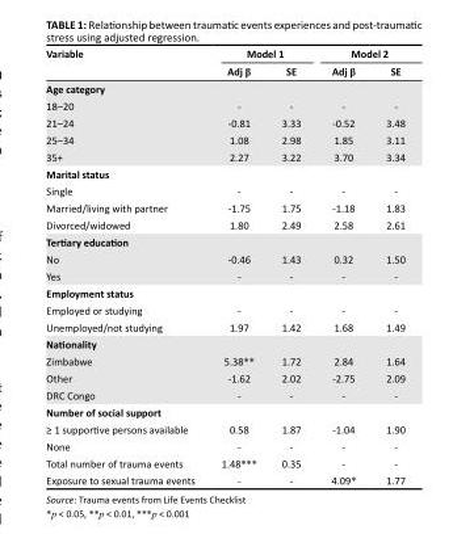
<table><thead><tr><td rowspan="2">Variable</td><td colspan="2">Model 1</td><td colspan="2">Model 2</td></tr><tr><td>Adj β</td><td>SE</td><td>Adj β</td><td>SE</td></tr></thead><tbody><tr><td colspan="5">Age category</td></tr><tr><td>18–20</td><td>-</td><td>-</td><td>-</td><td>-</td></tr><tr><td>21–24</td><td>-0.81</td><td>3.33</td><td>-0.52</td><td>3.48</td></tr><tr><td>25–34</td><td>1.08</td><td>2.98</td><td>1.85</td><td>3.11</td></tr><tr><td>35+</td><td>2.27</td><td>3.22</td><td>3.70</td><td>3.34</td></tr><tr><td colspan="5">Marital status</td></tr><tr><td>Single</td><td>-</td><td>-</td><td>-</td><td>-</td></tr><tr><td>Married/living with partner</td><td>-1.75</td><td>1.75</td><td>-1.18</td><td>1.83</td></tr><tr><td>Divorced/widowed</td><td>1.80</td><td>2.49</td><td>2.58</td><td>2.61</td></tr><tr><td colspan="5">Tertiary education</td></tr><tr><td>No</td><td>-0.46</td><td>1.43</td><td>0.32</td><td>1.50</td></tr><tr><td>Yes</td><td>-</td><td>-</td><td>-</td><td>-</td></tr><tr><td colspan="5">Employment status</td></tr><tr><td>Employed or studying</td><td>-</td><td>-</td><td>-</td><td>-</td></tr><tr><td>Unemployed/not studying</td><td>1.97</td><td>1.42</td><td>1.68</td><td>1.49</td></tr><tr><td colspan="5">Nationality</td></tr><tr><td>Zimbabwe</td><td>5.38**</td><td>1.72</td><td>2.84</td><td>1.64</td></tr><tr><td>Other</td><td>-1.62</td><td>2.02</td><td>-2.75</td><td>2.09</td></tr><tr><td>DRC Congo</td><td>-</td><td>-</td><td>-</td><td>-</td></tr><tr><td colspan="5">Number of social support</td></tr><tr><td>≥ 1 supportive persons available</td><td>0.58</td><td>1.87</td><td>-1.04</td><td>1.90</td></tr><tr><td>None</td><td>-</td><td>-</td><td>-</td><td>-</td></tr><tr><td>Total number of trauma events</td><td>1.48***</td><td>0.35</td><td>-</td><td>-</td></tr><tr><td>Exposure to sexual trauma events</td><td>-</td><td>-</td><td>4.09*</td><td>1.77</td></tr></tbody></table>